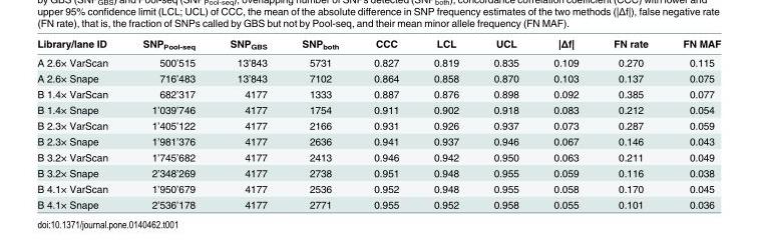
<table><thead><tr><td>Library/lane ID</td><td>SNP<sub>Pool-seq</sub></td><td>SNP<sub>GBS</sub></td><td>SNP<sub>both</sub></td><td>CCC</td><td>LCL</td><td>UCL</td><td>|Δf|</td><td>FN rate</td><td>FN MAF</td></tr></thead><tbody><tr><td>A 2.6× VarScan</td><td>500’515</td><td>13’843</td><td>5731</td><td>0.827</td><td>0.819</td><td>0.835</td><td>0.109</td><td>0.270</td><td>0.115</td></tr><tr><td>A 2.6× Snape</td><td>716’483</td><td>13’843</td><td>7102</td><td>0.864</td><td>0.858</td><td>0.870</td><td>0.103</td><td>0.137</td><td>0.075</td></tr><tr><td>B 1.4× VarScan</td><td>682’317</td><td>4177</td><td>1333</td><td>0.887</td><td>0.876</td><td>0.898</td><td>0.092</td><td>0.385</td><td>0.077</td></tr><tr><td>B 1.4× Snape</td><td>1’039’746</td><td>4177</td><td>1754</td><td>0.911</td><td>0.902</td><td>0.918</td><td>0.083</td><td>0.212</td><td>0.054</td></tr><tr><td>B 2.3× VarScan</td><td>1’405’122</td><td>4177</td><td>2166</td><td>0.931</td><td>0.926</td><td>0.937</td><td>0.073</td><td>0.287</td><td>0.059</td></tr><tr><td>B 2.3× Snape</td><td>1’981’376</td><td>4177</td><td>2636</td><td>0.941</td><td>0.937</td><td>0.946</td><td>0.067</td><td>0.146</td><td>0.043</td></tr><tr><td>B 3.2× VarScan</td><td>1’745’682</td><td>4177</td><td>2413</td><td>0.946</td><td>0.942</td><td>0.950</td><td>0.063</td><td>0.211</td><td>0.049</td></tr><tr><td>B 3.2× Snape</td><td>2’348’269</td><td>4177</td><td>2738</td><td>0.951</td><td>0.948</td><td>0.955</td><td>0.059</td><td>0.116</td><td>0.038</td></tr><tr><td>B 4.1× VarScan</td><td>1’950’679</td><td>4177</td><td>2536</td><td>0.952</td><td>0.948</td><td>0.955</td><td>0.058</td><td>0.170</td><td>0.045</td></tr><tr><td>B 4.1× Snape</td><td>2’536’178</td><td>4177</td><td>2771</td><td>0.955</td><td>0.952</td><td>0.958</td><td>0.055</td><td>0.101</td><td>0.036</td></tr></tbody></table>